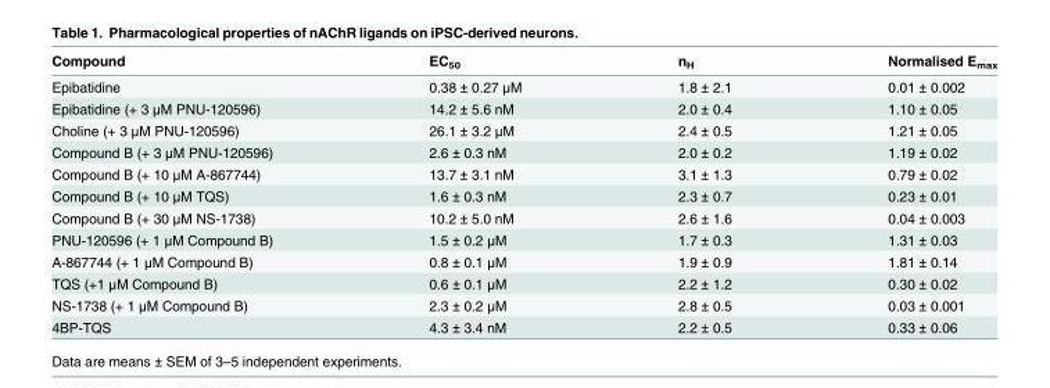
<table><thead><tr><td>Compound</td><td>EC<sub>50</sub></td><td>n<sub>H</sub></td><td>Normalised E<sub>max</sub></td></tr></thead><tbody><tr><td>Epibatidine</td><td>0.38 ± 0.27 μM</td><td>1.8 ± 2.1</td><td>0.01 ± 0.002</td></tr><tr><td>Epibatidine (+ 3 μM PNU-120596)</td><td>14.2 ± 5.6 nM</td><td>2.0 ± 0.4</td><td>1.10 ± 0.05</td></tr><tr><td>Choline (+ 3 μM PNU-120596)</td><td>26.1 ± 3.2 μM</td><td>2.4 ± 0.5</td><td>1.21 ± 0.05</td></tr><tr><td>Compound B (+ 3 μM PNU-120596)</td><td>2.6 ± 0.3 nM</td><td>2.0 ± 0.2</td><td>1.19 ± 0.02</td></tr><tr><td>Compound B (+ 10 μM A-867744)</td><td>13.7 ± 3.1 nM</td><td>3.1 ± 1.3</td><td>0.79 ± 0.02</td></tr><tr><td>Compound B (+ 10 μM TQS)</td><td>1.6 ± 0.3 nM</td><td>2.3 ± 0.7</td><td>0.23 ± 0.01</td></tr><tr><td>Compound B (+ 30 μM NS-1738)</td><td>10.2 ± 5.0 nM</td><td>2.6 ± 1.6</td><td>0.04 ± 0.003</td></tr><tr><td>PNU-120596 (+ 1 μM Compound B)</td><td>1.5 ± 0.2 μM</td><td>1.7 ± 0.3</td><td>1.31 ± 0.03</td></tr><tr><td>A-867744 (+ 1 μM Compound B)</td><td>0.8 ± 0.1 μM</td><td>1.9 ± 0.9</td><td>1.81 ± 0.14</td></tr><tr><td>TQS (+1 μM Compound B)</td><td>0.6 ± 0.1 μM</td><td>2.2 ± 1.2</td><td>0.30 ± 0.02</td></tr><tr><td>NS-1738 (+ 1 μM Compound B)</td><td>2.3 ± 0.2 μM</td><td>2.8 ± 0.5</td><td>0.03 ± 0.001</td></tr><tr><td>4BP-TQS</td><td>4.3 ± 3.4 nM</td><td>2.2 ± 0.5</td><td>0.33 ± 0.06</td></tr></tbody></table>